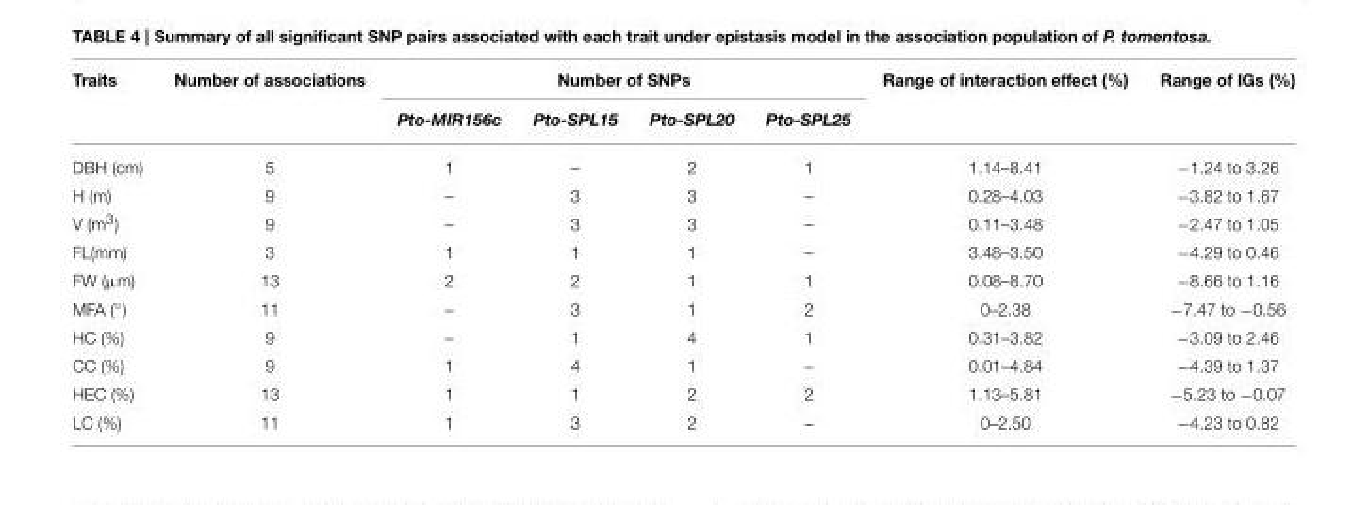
<table><thead><tr><td rowspan="2">Traits</td><td rowspan="2">Number of associations</td><td colspan="4">Number of SNPs</td><td rowspan="2">Range of interaction effect (%)</td><td rowspan="2">Range of IGs (%)</td></tr><tr><td>Pto-MIR156c</td><td>Pto-SPL15</td><td>Pto-SPL20</td><td>Pto-SPL25</td></tr></thead><tbody><tr><td>DBH (cm)</td><td>5</td><td>1</td><td>–</td><td>2</td><td>1</td><td>1.14–8.41</td><td>−1.24 to 3.26</td></tr><tr><td>H (m)</td><td>9</td><td>–</td><td>3</td><td>3</td><td>–</td><td>0.28–4.03</td><td>−3.82 to 1.67</td></tr><tr><td>V (m<sup>3</sup>)</td><td>9</td><td>–</td><td>3</td><td>3</td><td>–</td><td>0.11–3.48</td><td>−2.47 to 1.05</td></tr><tr><td>FL(mm)</td><td>3</td><td>1</td><td>1</td><td>1</td><td>–</td><td>3.48–3.50</td><td>−4.29 to 0.46</td></tr><tr><td>FW (µm)</td><td>13</td><td>2</td><td>2</td><td>1</td><td>1</td><td>0.08–8.70</td><td>−8.66 to 1.16</td></tr><tr><td>MFA (◦)</td><td>11</td><td>–</td><td>3</td><td>1</td><td>2</td><td>0–2.38</td><td>−7.47 to −0.56</td></tr><tr><td>HC (%)</td><td>9</td><td>–</td><td>1</td><td>4</td><td>1</td><td>0.31–3.82</td><td>−3.09 to 2.46</td></tr><tr><td>CC (%)</td><td>9</td><td>1</td><td>4</td><td>1</td><td>–</td><td>0.01–4.84</td><td>−4.39 to 1.37</td></tr><tr><td>HEC (%)</td><td>13</td><td>1</td><td>1</td><td>2</td><td>2</td><td>1.13–5.81</td><td>−5.23 to −0.07</td></tr><tr><td>LC (%)</td><td>11</td><td>1</td><td>3</td><td>2</td><td>–</td><td>0–2.50</td><td>−4.23 to 0.82</td></tr></tbody></table>